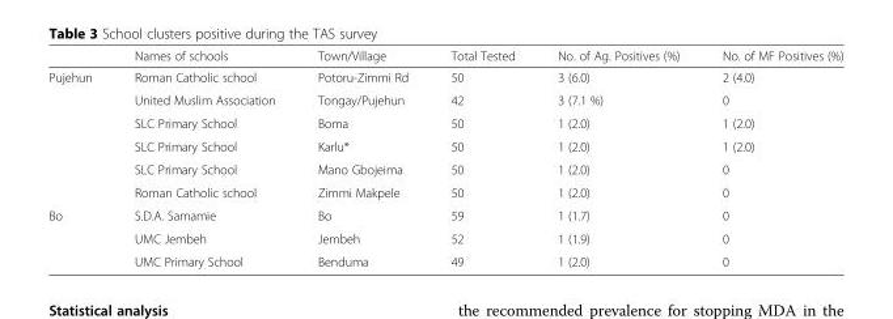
<table><thead><tr><td></td><td>Names of schools</td><td>Town/Village</td><td>Total Tested</td><td>No. of Ag. Positives (%)</td><td>No. of MF Positives (%)</td></tr></thead><tbody><tr><td rowspan="6">Pujehun</td><td>Roman Catholic school</td><td>Potoru-Zimmi Rd</td><td>50</td><td>3 (6.0)</td><td>2 (4.0)</td></tr><tr><td>United Muslim Association</td><td>Tongay/Pujehun</td><td>42</td><td>3 (7.1 %)</td><td>0</td></tr><tr><td>SLC Primary School</td><td>Boma</td><td>50</td><td>1 (2.0)</td><td>1 (2.0)</td></tr><tr><td>SLC Primary School</td><td>Karlu*</td><td>50</td><td>1 (2.0)</td><td>1 (2.0)</td></tr><tr><td>SLC Primary School</td><td>Mano Gbojeima</td><td>50</td><td>1 (2.0)</td><td>0</td></tr><tr><td>Roman Catholic school</td><td>Zimmi Makpele</td><td>50</td><td>1 (2.0)</td><td>0</td></tr><tr><td rowspan="3">Bo</td><td>S.D.A. Samamie</td><td>Bo</td><td>59</td><td>1 (1.7)</td><td>0</td></tr><tr><td>UMC Jembeh</td><td>Jembeh</td><td>52</td><td>1 (1.9)</td><td>0</td></tr><tr><td>UMC Primary School</td><td>Benduma</td><td>49</td><td>1 (2.0)</td><td>0</td></tr></tbody></table>